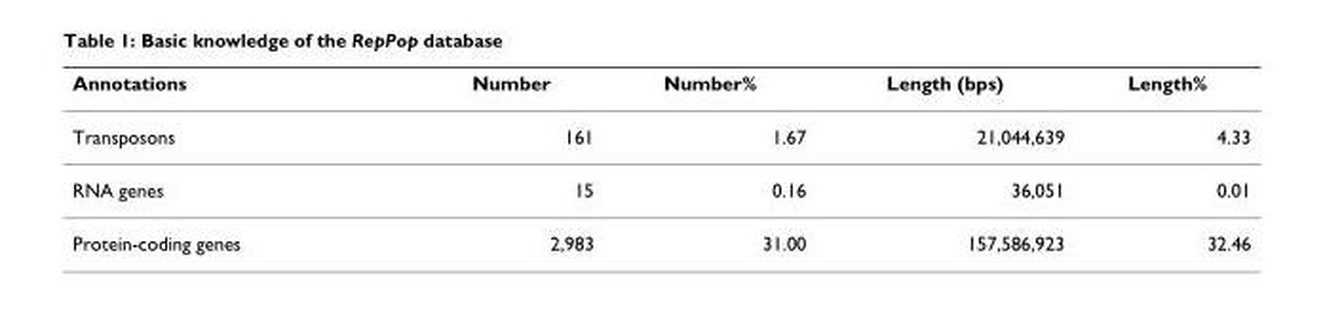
<table><thead><tr><td>Annotations</td><td>Number</td><td>Number%</td><td>Length (bps)</td><td>Length%</td></tr></thead><tbody><tr><td>Transposons</td><td>161</td><td>1.67</td><td>21,044,639</td><td>4.33</td></tr><tr><td>RNA genes</td><td>15</td><td>0.16</td><td>36,051</td><td>0.01</td></tr><tr><td>Protein-coding genes</td><td>2,983</td><td>31.00</td><td>157,586,923</td><td>32.46</td></tr></tbody></table>